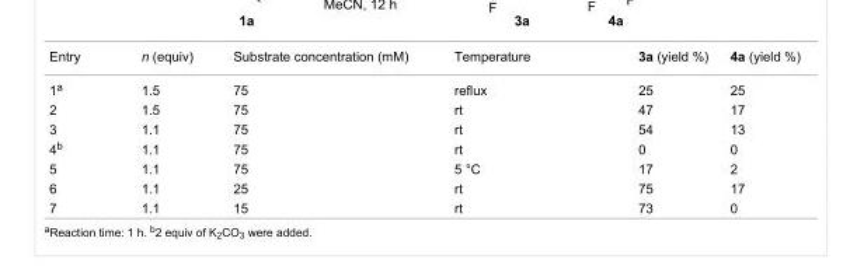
<table><tbody><tr><td>Entry</td><td>n (equiv)</td><td>Substrate concentration (mM)</td><td>Temperature</td><td>3a (yield %)</td><td>4a (yield %)</td></tr><tr><td>1<sup>a</sup></td><td>1.5</td><td>75</td><td>reflux</td><td>25</td><td>25</td></tr><tr><td>2</td><td>1.5</td><td>75</td><td>rt</td><td>47</td><td>17</td></tr><tr><td>3</td><td>1.1</td><td>75</td><td>rt</td><td>54</td><td>13</td></tr><tr><td>4<sup>b</sup></td><td>1.1</td><td>75</td><td>rt</td><td>0</td><td>0</td></tr><tr><td>5</td><td>1.1</td><td>75</td><td>5 °C</td><td>17</td><td>2</td></tr><tr><td>6</td><td>1.1</td><td>25</td><td>rt</td><td>75</td><td>17</td></tr><tr><td>7</td><td>1.1</td><td>15</td><td>rt</td><td>73</td><td>0</td></tr></tbody></table>